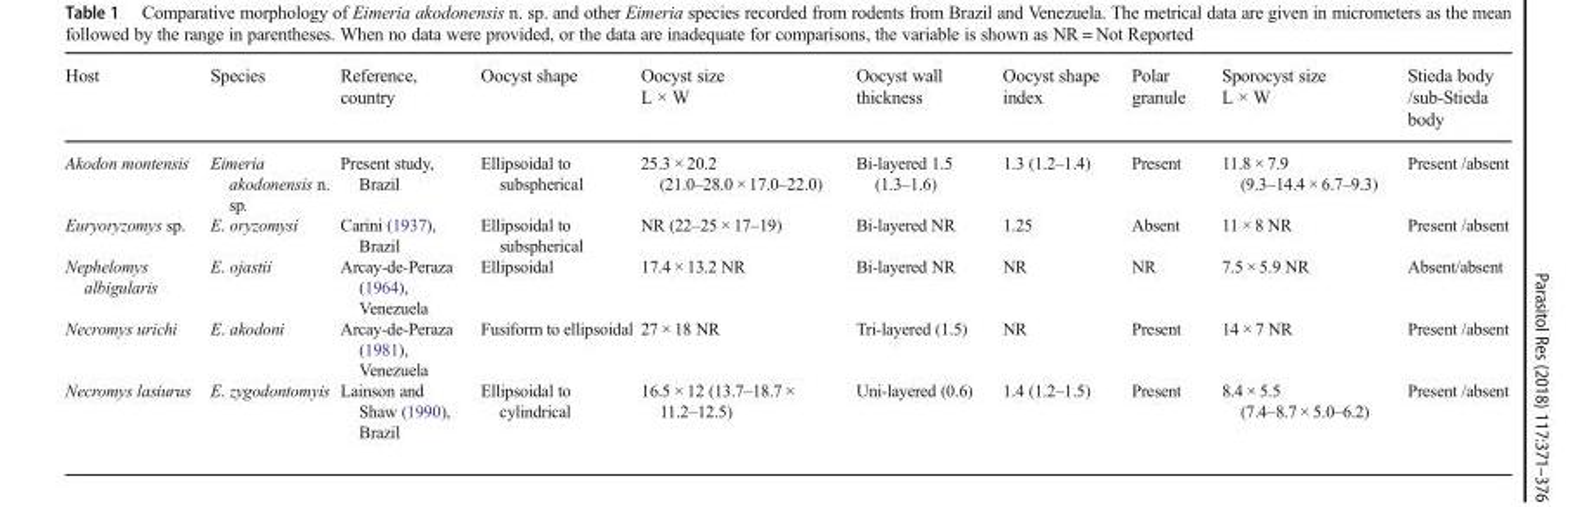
<table><thead><tr><td>Host</td><td>Species</td><td>Reference, country</td><td>Oocyst shape</td><td>Oocyst size L × W</td><td>Oocyst wall thickness</td><td>Oocyst shape index</td><td>Polar granule</td><td>Sporocyst size L × W</td><td>Stieda body /sub-Stieda body</td></tr></thead><tbody><tr><td>Akodon montensis</td><td>Eimeria akodonensis n. sp.</td><td>Present study, Brazil</td><td>Ellipsoidal to subspherical</td><td>25.3 × 20.2 (21.0–28.0 × 17.0–22.0)</td><td>Bi-layered 1.5 (1.3–1.6)</td><td>1.3 (1.2–1.4)</td><td>Present</td><td>11.8 × 7.9 (9.3–14.4 × 6.7–9.3)</td><td>Present /absent</td></tr><tr><td>Euryoryzomys sp.</td><td>E. oryzomysi</td><td>Carini (1937), Brazil</td><td>Ellipsoidal to subspherical</td><td>NR (22–25 × 17–19)</td><td>Bi-layered NR</td><td>1.25</td><td>Absent</td><td>11 × 8 NR</td><td>Present /absent</td></tr><tr><td>Nephelomys albigularis</td><td>E. ojastii</td><td>Arcay-de-Peraza (1964), Venezuela</td><td>Ellipsoidal</td><td>17.4 × 13.2 NR</td><td>Bi-layered NR</td><td>NR</td><td>NR</td><td>7.5 × 5.9 NR</td><td>Absent/absent</td></tr><tr><td>Necromys urichi</td><td>E. akodoni</td><td>Arcay-de-Peraza (1981), Venezuela</td><td>Fusiform to ellipsoidal</td><td>27 × 18 NR</td><td>Tri-layered (1.5)</td><td>NR</td><td>Present</td><td>14 × 7 NR</td><td>Present /absent</td></tr><tr><td>Necromys lasiurus</td><td>E. zygodontomyis</td><td>Lainson and Shaw (1990), Brazil</td><td>Ellipsoidal to cylindrical</td><td>16.5 × 12 (13.7–18.7 × 11.2–12.5)</td><td>Uni-layered (0.6)</td><td>1.4 (1.2–1.5)</td><td>Present</td><td>8.4 × 5.5 (7.4–8.7 × 5.0–6.2)</td><td>Present /absent</td></tr></tbody></table>